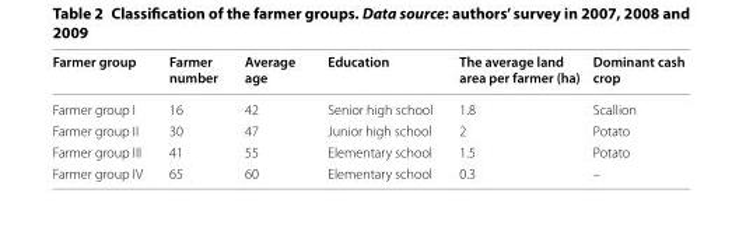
<table><thead><tr><td>Farmer group</td><td>Farmer number</td><td>Average age</td><td>Education</td><td>The average land area per farmer (ha)</td><td>Dominant cash crop</td></tr></thead><tbody><tr><td>Farmer group I</td><td>16</td><td>42</td><td>Senior high school</td><td>1.8</td><td>Scallion</td></tr><tr><td>Farmer group II</td><td>30</td><td>47</td><td>Junior high school</td><td>2</td><td>Potato</td></tr><tr><td>Farmer group III</td><td>41</td><td>55</td><td>Elementary school</td><td>1.5</td><td>Potato</td></tr><tr><td>Farmer group IV</td><td>65</td><td>60</td><td>Elementary school</td><td>0.3</td><td>–</td></tr></tbody></table>